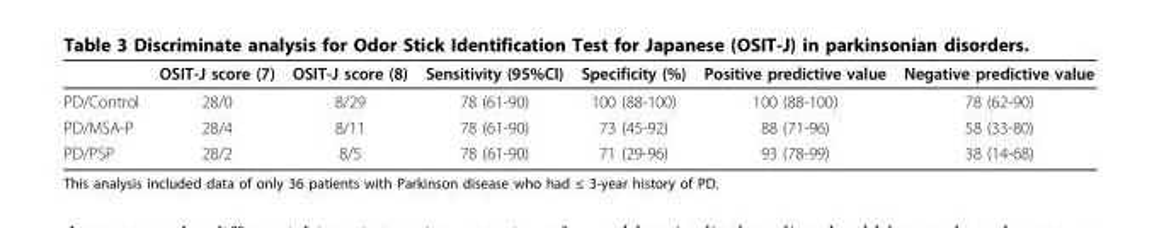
<table><thead><tr><td></td><td>OSIT-J score (7)</td><td>OSIT-J score (8)</td><td>Sensitivity (95%CI)</td><td>Specificity (%)</td><td>Positive predictive value</td><td>Negative predictive value</td></tr></thead><tbody><tr><td>PD/Control</td><td>28/0</td><td>8/29</td><td>78 (61-90)</td><td>100 (88-100)</td><td>100 (88-100)</td><td>78 (62-90)</td></tr><tr><td>PD/MSA-P</td><td>28/4</td><td>8/11</td><td>78 (61-90)</td><td>73 (45-92)</td><td>88 (71-96)</td><td>58 (33-80)</td></tr><tr><td>PD/PSP</td><td>28/2</td><td>8/5</td><td>78 (61-90)</td><td>71 (29-96)</td><td>93 (78-99)</td><td>38 (14-68)</td></tr></tbody></table>